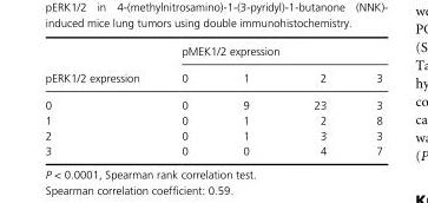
<table><thead><tr><td rowspan="2">pERK1/2 expression</td><td colspan="4">pMEK1/2 expression</td></tr><tr><td>0</td><td>1</td><td>2</td><td>3</td></tr></thead><tbody><tr><td>0</td><td>0</td><td>9</td><td>23</td><td>3</td></tr><tr><td>1</td><td>0</td><td>1</td><td>2</td><td>8</td></tr><tr><td>2</td><td>0</td><td>1</td><td>3</td><td>3</td></tr><tr><td>3</td><td>0</td><td>0</td><td>4</td><td>7</td></tr></tbody></table>